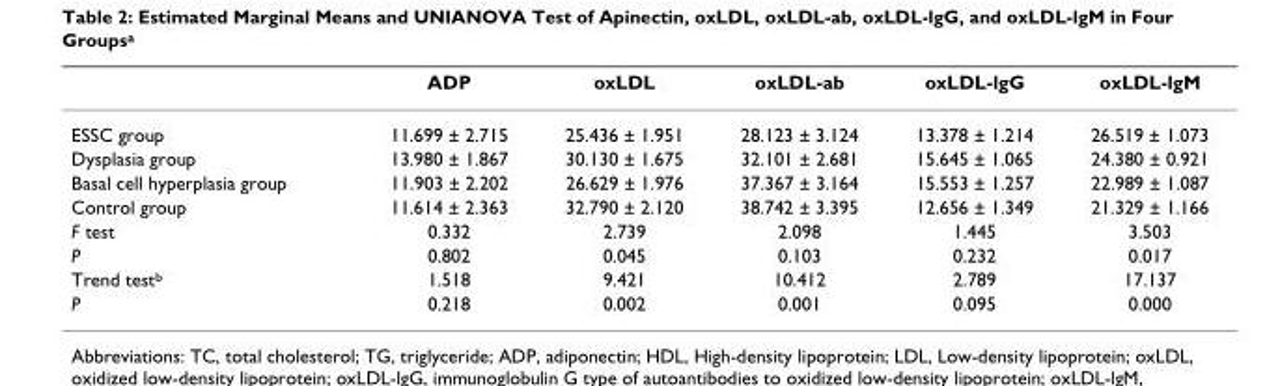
<table><thead><tr><td></td><td>ADP</td><td>oxLDL</td><td>oxLDL-ab</td><td>oxLDL-lgG</td><td>oxLDL-lgM</td></tr></thead><tbody><tr><td>ESSC group</td><td>11.699 ± 2.715</td><td>25.436 ± 1.951</td><td>28.123 ± 3.124</td><td>13.378 ± 1.214</td><td>26.519 ± 1.073</td></tr><tr><td>Dysplasia group</td><td>13.980 ± 1.867</td><td>30.130 ± 1.675</td><td>32.101 ± 2.681</td><td>15.645 ± 1.065</td><td>24.380 ± 0.921</td></tr><tr><td>Basal cell hyperplasia group</td><td>11.903 ± 2.202</td><td>26.629 ± 1.976</td><td>37.367 ± 3.164</td><td>15.553 ± 1.257</td><td>22.989 ± 1.087</td></tr><tr><td>Control group</td><td>11.614 ± 2.363</td><td>32.790 ± 2.120</td><td>38.742 ± 3.395</td><td>12.656 ± 1.349</td><td>21.329 ± 1.166</td></tr><tr><td>F test</td><td>0.332</td><td>2.739</td><td>2.098</td><td>1.445</td><td>3.503</td></tr><tr><td>P</td><td>0.802</td><td>0.045</td><td>0.103</td><td>0.232</td><td>0.017</td></tr><tr><td>Trend test<sup>b</sup></td><td>1.518</td><td>9.421</td><td>10.412</td><td>2.789</td><td>17.137</td></tr><tr><td>P</td><td>0.218</td><td>0.002</td><td>0.001</td><td>0.095</td><td>0.000</td></tr></tbody></table>